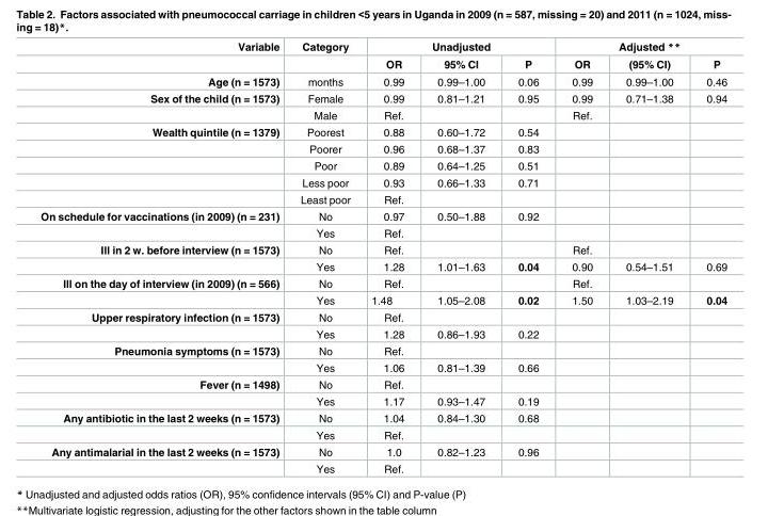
<table><thead><tr><td rowspan="2">Variable</td><td rowspan="2">Category</td><td colspan="3">Unadjusted</td><td colspan="3">Adjusted **</td></tr><tr><td>OR</td><td>95% CI</td><td>P</td><td>OR</td><td>(95% CI)</td><td>P</td></tr></thead><tbody><tr><td>Age (n = 1573)</td><td>months</td><td>0.99</td><td>0.99–1.00</td><td>0.06</td><td>0.99</td><td>0.99–1.00</td><td>0.46</td></tr><tr><td rowspan="2">Sex of the child (n = 1573)</td><td>Female</td><td>0.99</td><td>0.81–1.21</td><td>0.95</td><td>0.99</td><td>0.71–1.38</td><td>0.94</td></tr><tr><td>Male</td><td>Ref.</td><td></td><td></td><td>Ref.</td><td></td><td></td></tr><tr><td rowspan="5">Wealth quintile (n = 1379)</td><td>Poorest</td><td>0.88</td><td>0.60–1.72</td><td>0.54</td><td></td><td></td><td></td></tr><tr><td>Poorer</td><td>0.96</td><td>0.68–1.37</td><td>0.83</td><td></td><td></td><td></td></tr><tr><td>Poor</td><td>0.89</td><td>0.64–1.25</td><td>0.51</td><td></td><td></td><td></td></tr><tr><td>Less poor</td><td>0.93</td><td>0.66–1.33</td><td>0.71</td><td></td><td></td><td></td></tr><tr><td>Least poor</td><td>Ref.</td><td></td><td></td><td></td><td></td><td></td></tr><tr><td rowspan="2">On schedule for vaccinations (in 2009) (n = 231)</td><td>No</td><td>0.97</td><td>0.50–1.88</td><td>0.92</td><td></td><td></td><td></td></tr><tr><td>Yes</td><td>Ref.</td><td></td><td></td><td></td><td></td><td></td></tr><tr><td rowspan="2">Ill in 2 w. before interview (n = 1573)</td><td>No</td><td>Ref.</td><td></td><td></td><td>Ref.</td><td></td><td></td></tr><tr><td>Yes</td><td>1.28</td><td>1.01–1.63</td><td>0.04</td><td>0.90</td><td>0.54–1.51</td><td>0.69</td></tr><tr><td rowspan="2">Ill on the day of interview (in 2009) (n = 566)</td><td>No</td><td>Ref.</td><td></td><td></td><td>Ref.</td><td></td><td></td></tr><tr><td>Yes</td><td>1.48</td><td>1.05–2.08</td><td>0.02</td><td>1.50</td><td>1.03–2.19</td><td>0.04</td></tr><tr><td rowspan="2">Upper respiratory infection (n = 1573)</td><td>No</td><td>Ref.</td><td></td><td></td><td></td><td></td><td></td></tr><tr><td>Yes</td><td>1.28</td><td>0.86–1.93</td><td>0.22</td><td></td><td></td><td></td></tr><tr><td rowspan="2">Pneumonia symptoms (n = 1573)</td><td>No</td><td>Ref.</td><td></td><td></td><td></td><td></td><td></td></tr><tr><td>Yes</td><td>1.06</td><td>0.81–1.39</td><td>0.66</td><td></td><td></td><td></td></tr><tr><td rowspan="2">Fever (n = 1498)</td><td>No</td><td>Ref.</td><td></td><td></td><td></td><td></td><td></td></tr><tr><td>Yes</td><td>1.17</td><td>0.93–1.47</td><td>0.19</td><td></td><td></td><td></td></tr><tr><td rowspan="2">Any antibiotic in the last 2 weeks (n = 1573)</td><td>No</td><td>1.04</td><td>0.84–1.30</td><td>0.68</td><td></td><td></td><td></td></tr><tr><td>Yes</td><td>Ref.</td><td></td><td></td><td></td><td></td><td></td></tr><tr><td rowspan="2">Any antimalarial in the last 2 weeks (n = 1573)</td><td>No</td><td>1.0</td><td>0.82–1.23</td><td>0.96</td><td></td><td></td><td></td></tr><tr><td>Yes</td><td>Ref.</td><td></td><td></td><td></td><td></td><td></td></tr></tbody></table>